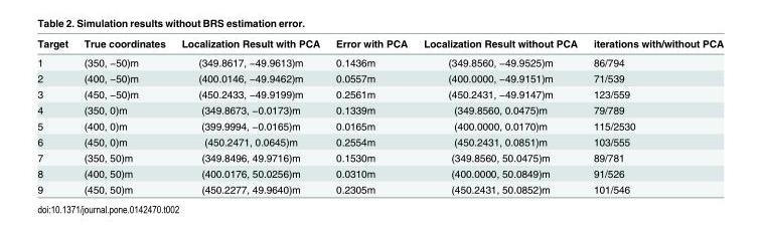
<table><thead><tr><td>Target</td><td>True coordinates</td><td>Localization Result with PCA</td><td>Error with PCA</td><td>Localization Result without PCA</td><td>iterations with/without PCA</td></tr></thead><tbody><tr><td>1</td><td>(350, −50)m</td><td>(349.8617, −49.9613)m</td><td>0.1436m</td><td>(349.8560, −49.9525)m</td><td>86/794</td></tr><tr><td>2</td><td>(400, −50)m</td><td>(400.0146, −49.9462)m</td><td>0.0557m</td><td>(400.0000, −49.9151)m</td><td>71/539</td></tr><tr><td>3</td><td>(450, −50)m</td><td>(450.2433, −49.9199)m</td><td>0.2561m</td><td>(450.2431, −49.9147)m</td><td>123/559</td></tr><tr><td>4</td><td>(350, 0)m</td><td>(349.8673, −0.0173)m</td><td>0.1339m</td><td>(349.8560, 0.0475)m</td><td>79/789</td></tr><tr><td>5</td><td>(400, 0)m</td><td>(399.9994, −0.0165)m</td><td>0.0165m</td><td>(400.0000, 0.0170)m</td><td>115/2530</td></tr><tr><td>6</td><td>(450, 0)m</td><td>(450.2471, 0.0645)m</td><td>0.2554m</td><td>(450.2431, 0.0851)m</td><td>103/555</td></tr><tr><td>7</td><td>(350, 50)m</td><td>(349.8496, 49.9716)m</td><td>0.1530m</td><td>(349.8560, 50.0475)m</td><td>89/781</td></tr><tr><td>8</td><td>(400, 50)m</td><td>(400.0176, 50.0256)m</td><td>0.0310m</td><td>(400.0000, 50.0849)m</td><td>91/526</td></tr><tr><td>9</td><td>(450, 50)m</td><td>(450.2277, 49.9640)m</td><td>0.2305m</td><td>(450.2431, 50.0852)m</td><td>101/546</td></tr></tbody></table>